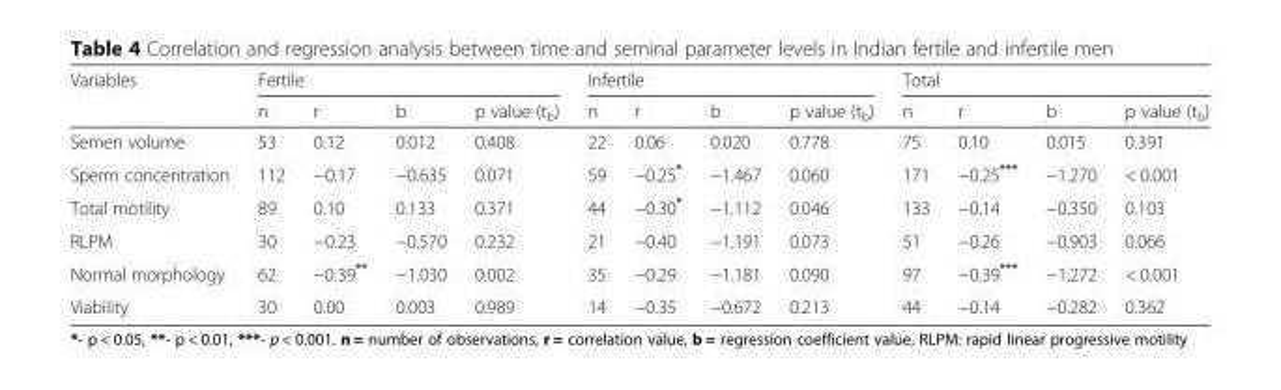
<table><thead><tr><td rowspan="2">Variables</td><td colspan="4">Fertile</td><td colspan="4">Infertile</td><td colspan="4">Total</td></tr><tr><td>n</td><td>r</td><td>b</td><td>p value (t<sub>b</sub>)</td><td>n</td><td>r</td><td>b</td><td>p value (t<sub>b</sub>)</td><td>n</td><td>r</td><td>b</td><td>p value (t<sub>b</sub>)</td></tr></thead><tbody><tr><td>Semen volume</td><td>53</td><td>0.12</td><td>0.012</td><td>0.408</td><td>22</td><td>0.06</td><td>0.020</td><td>0.778</td><td>75</td><td>0.10</td><td>0.015</td><td>0.391</td></tr><tr><td>Sperm concentration</td><td>112</td><td>−0.17</td><td>−0.635</td><td>0.071</td><td>59</td><td>−0.25*</td><td>−1.467</td><td>0.060</td><td>171</td><td>−0.25***</td><td>−1.270</td><td>&lt; 0.001</td></tr><tr><td>Total motility</td><td>89</td><td>0.10</td><td>0.133</td><td>0.371</td><td>44</td><td>−0.30*</td><td>−1.112</td><td>0.046</td><td>133</td><td>−0.14</td><td>−0.350</td><td>0.103</td></tr><tr><td>RLPM</td><td>30</td><td>−0.23</td><td>−0.570</td><td>0.232</td><td>21</td><td>−0.40</td><td>−1.191</td><td>0.073</td><td>51</td><td>−0.26</td><td>−0.903</td><td>0.066</td></tr><tr><td>Normal morphology</td><td>62</td><td>−0.39**</td><td>−1.030</td><td>0.002</td><td>35</td><td>−0.29</td><td>−1.181</td><td>0.090</td><td>97</td><td>−0.39***</td><td>−1.272</td><td>&lt; 0.001</td></tr><tr><td>Viability</td><td>30</td><td>0.00</td><td>0.003</td><td>0.989</td><td>14</td><td>−0.35</td><td>−0.672</td><td>0.213</td><td>44</td><td>−0.14</td><td>−0.282</td><td>0.362</td></tr></tbody></table>